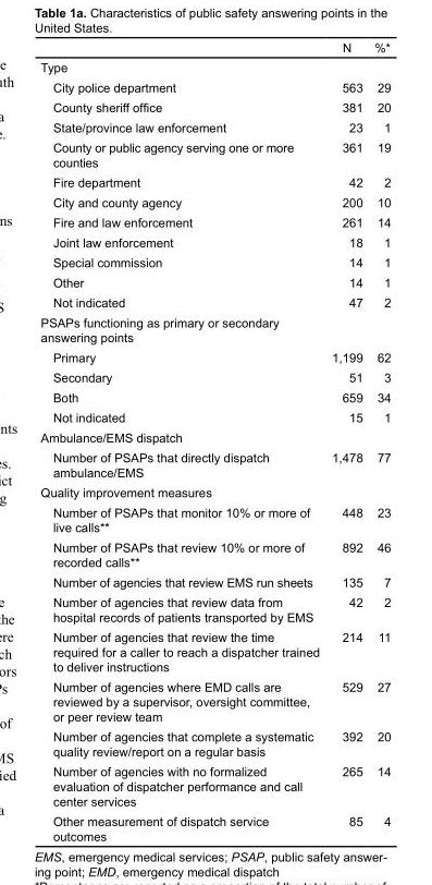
<table><thead><tr><td></td><td>N</td><td>%*</td></tr></thead><tbody><tr><td colspan="3">Type</td></tr><tr><td>City police department</td><td>563</td><td>29</td></tr><tr><td>County sheriff office</td><td>381</td><td>20</td></tr><tr><td>State/province law enforcement</td><td>23</td><td>1</td></tr><tr><td>County or public agency serving one or more counties</td><td>361</td><td>19</td></tr><tr><td>Fire department</td><td>42</td><td>2</td></tr><tr><td>City and county agency</td><td>200</td><td>10</td></tr><tr><td>Fire and law enforcement</td><td>261</td><td>14</td></tr><tr><td>Joint law enforcement</td><td>18</td><td>1</td></tr><tr><td>Special commission</td><td>14</td><td>1</td></tr><tr><td>Other</td><td>14</td><td>1</td></tr><tr><td>Not indicated</td><td>47</td><td>2</td></tr><tr><td colspan="3">PSAPs functioning as primary or secondary answering points</td></tr><tr><td>Primary</td><td>1,199</td><td>62</td></tr><tr><td>Secondary</td><td>51</td><td>3</td></tr><tr><td>Both</td><td>659</td><td>34</td></tr><tr><td>Not indicated</td><td>15</td><td>1</td></tr><tr><td colspan="3">Ambulance/EMS dispatch</td></tr><tr><td>Number of PSAPs that directly dispatch ambulance/EMS</td><td>1,478</td><td>77</td></tr><tr><td colspan="3">Quality improvement measures</td></tr><tr><td>Number of PSAPs that monitor 10% or more of live calls**</td><td>448</td><td>23</td></tr><tr><td>Number of PSAPs that review 10% or more of recorded calls**</td><td>892</td><td>46</td></tr><tr><td>Number of agencies that review EMS run sheets</td><td>135</td><td>7</td></tr><tr><td>Number of agencies that review data from hospital records of patients transported by EMS</td><td>42</td><td>2</td></tr><tr><td>Number of agencies that review the time required for a caller to reach a dispatcher trained to deliver instructions</td><td>214</td><td>11</td></tr><tr><td>Number of agencies where EMD calls are reviewed by a supervisor, oversight committee, or peer review team</td><td>529</td><td>27</td></tr><tr><td>Number of agencies that complete a systematic quality review/report on a regular basis</td><td>392</td><td>20</td></tr><tr><td>Number of agencies with no formalized evaluation of dispatcher performance and call center services</td><td>265</td><td>14</td></tr><tr><td>Other measurement of dispatch service outcomes</td><td>85</td><td>4</td></tr></tbody></table>